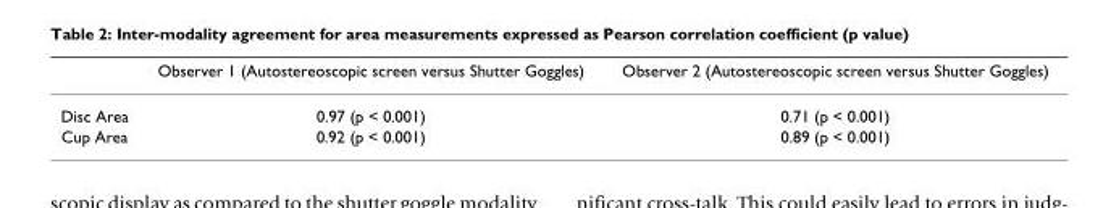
<table><thead><tr><td></td><td>Observer 1 (Autostereoscopic screen versus Shutter Goggles)</td><td>Observer 2 (Autostereoscopic screen versus Shutter Goggles)</td></tr></thead><tbody><tr><td>Disc Area</td><td>0.97 (p &lt; 0.001)</td><td>0.71 (p &lt; 0.001)</td></tr><tr><td>Cup Area</td><td>0.92 (p &lt; 0.001)</td><td>0.89 (p &lt; 0.001)</td></tr></tbody></table>